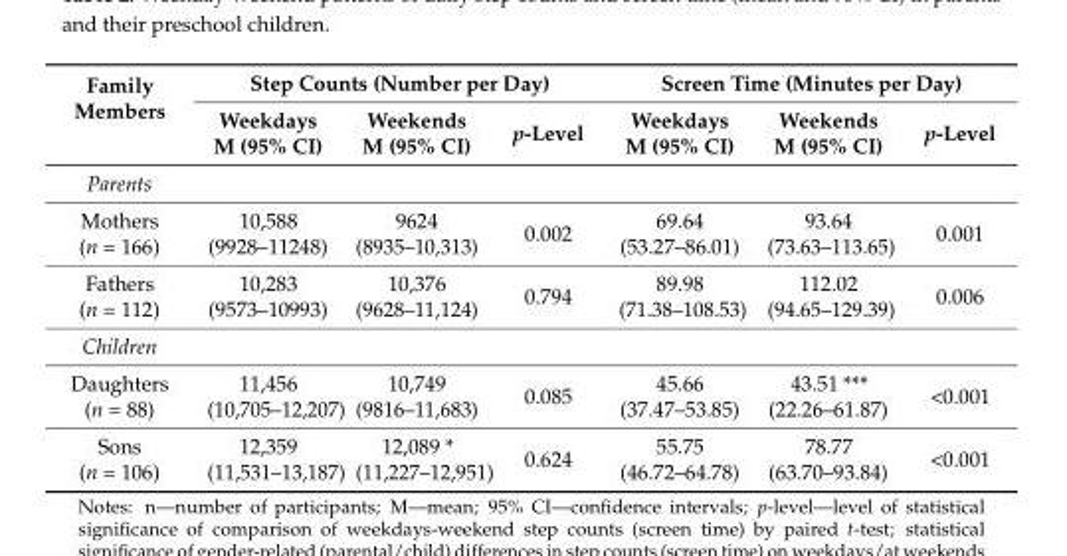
<table><thead><tr><td rowspan="2">Family Members</td><td colspan="3">Step Counts (Number per Day)</td><td colspan="3">Screen Time (Minutes per Day)</td></tr><tr><td>Weekdays M (95% CI)</td><td>Weekends M (95% CI)</td><td>p-Level</td><td>Weekdays M (95% CI)</td><td>Weekends M (95% CI)</td><td>p-Level</td></tr></thead><tbody><tr><td colspan="7">Parents</td></tr><tr><td>Mothers (n = 166)</td><td>10,588 (9928–11248)</td><td>9624 (8935–10,313)</td><td>0.002</td><td>69.64 (53.27–86.01)</td><td>93.64 (73.63–113.65)</td><td>0.001</td></tr><tr><td>Fathers (n = 112)</td><td>10,283 (9573–10993)</td><td>10,376 (9628–11,124)</td><td>0.794</td><td>89.98 (71.38–108.53)</td><td>112.02 (94.65–129.39)</td><td>0.006</td></tr><tr><td colspan="7">Children</td></tr><tr><td>Daughters (n = 88)</td><td>11,456 (10,705–12,207)</td><td>10,749 (9816–11,683)</td><td>0.085</td><td>45.66 (37.47–53.85)</td><td>43.51 *** (22.26–61.87)</td><td>&lt;0.001</td></tr><tr><td>Sons (n = 106)</td><td>12,359 (11,531–13,187)</td><td>12,089 * (11,227–12,951)</td><td>0.624</td><td>55.75 (46.72–64.78)</td><td>78.77 (63.70–93.84)</td><td>&lt;0.001</td></tr></tbody></table>